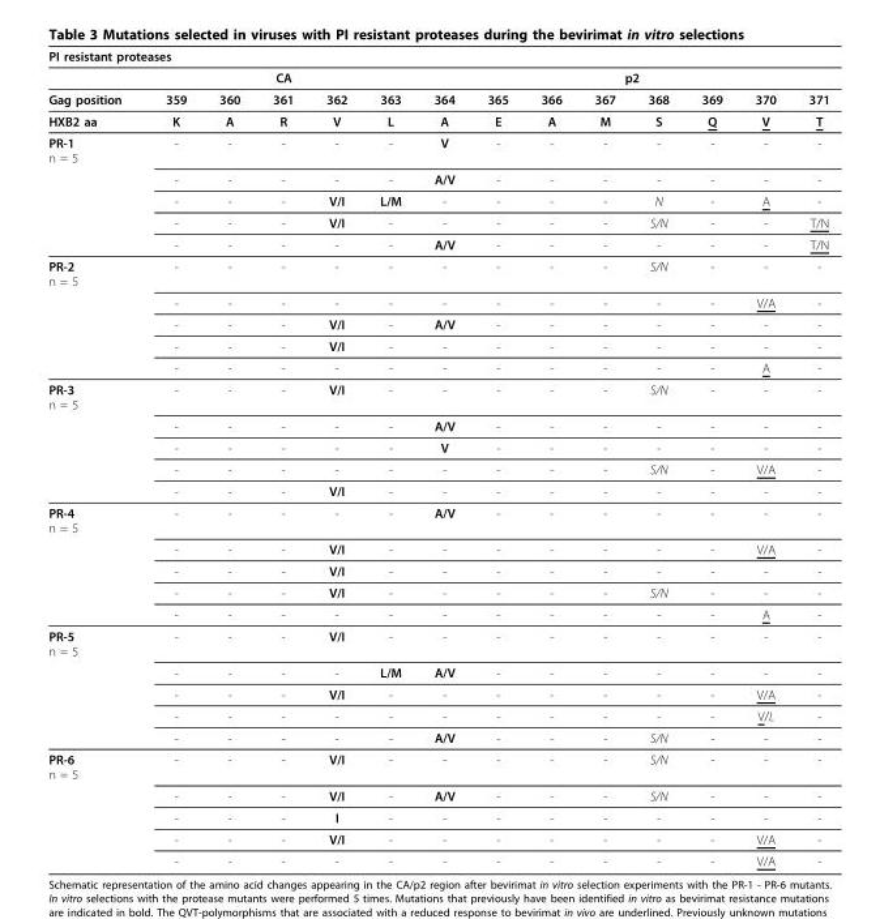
<table><thead><tr><td colspan="14">PI resistant proteases</td></tr><tr><td rowspan="2">Gag position</td><td colspan="5">CA</td><td colspan="8">p2</td></tr><tr><td>359</td><td>360</td><td>361</td><td>362</td><td>363</td><td>364</td><td>365</td><td>366</td><td>367</td><td>368</td><td>369</td><td>370</td><td>371</td></tr></thead><tbody><tr><td>HXB2 aa</td><td>K</td><td>A</td><td>R</td><td>V</td><td>L</td><td>A</td><td>E</td><td>A</td><td>M</td><td>S</td><td>Q</td><td>V</td><td>T</td></tr><tr><td rowspan="5">PR-1 n = 5</td><td>-</td><td>-</td><td>-</td><td>-</td><td>-</td><td>V</td><td>-</td><td>-</td><td>-</td><td>-</td><td>-</td><td>-</td><td>-</td></tr><tr><td>-</td><td>-</td><td>-</td><td>-</td><td>-</td><td>A/V</td><td>-</td><td>-</td><td>-</td><td>-</td><td>-</td><td>-</td><td>-</td></tr><tr><td>-</td><td>-</td><td>-</td><td>V/I</td><td>L/M</td><td>-</td><td>-</td><td>-</td><td>-</td><td>N</td><td>-</td><td>A</td><td>-</td></tr><tr><td>-</td><td>-</td><td>-</td><td>V/I</td><td>-</td><td>-</td><td>-</td><td>-</td><td>-</td><td>S/N</td><td>-</td><td>-</td><td>T/N</td></tr><tr><td>-</td><td>-</td><td>-</td><td>-</td><td>-</td><td>A/V</td><td>-</td><td>-</td><td>-</td><td>-</td><td>-</td><td>-</td><td>T/N</td></tr><tr><td rowspan="5">PR-2 n = 5</td><td>-</td><td>-</td><td>-</td><td>-</td><td>-</td><td>-</td><td>-</td><td>-</td><td>-</td><td>S/N</td><td>-</td><td>-</td><td>-</td></tr><tr><td>-</td><td>-</td><td>-</td><td>-</td><td>-</td><td>-</td><td>-</td><td>-</td><td>-</td><td>-</td><td>-</td><td>V/A</td><td>-</td></tr><tr><td>-</td><td>-</td><td>-</td><td>V/I</td><td>-</td><td>A/V</td><td>-</td><td>-</td><td>-</td><td>-</td><td>-</td><td>-</td><td>-</td></tr><tr><td>-</td><td>-</td><td>-</td><td>V/I</td><td>-</td><td>-</td><td>-</td><td>-</td><td>-</td><td>-</td><td>-</td><td>-</td><td>-</td></tr><tr><td>-</td><td>-</td><td>-</td><td>-</td><td>-</td><td>-</td><td>-</td><td>-</td><td>-</td><td>-</td><td>-</td><td>A</td><td>-</td></tr><tr><td rowspan="5">PR-3 n = 5</td><td>-</td><td>-</td><td>-</td><td>V/I</td><td>-</td><td>-</td><td>-</td><td>-</td><td>-</td><td>S/N</td><td>-</td><td>-</td><td>-</td></tr><tr><td>-</td><td>-</td><td>-</td><td>-</td><td>-</td><td>A/V</td><td>-</td><td>-</td><td>-</td><td>-</td><td>-</td><td>-</td><td>-</td></tr><tr><td>-</td><td>-</td><td>-</td><td>-</td><td>-</td><td>V</td><td>-</td><td>-</td><td>-</td><td>-</td><td>-</td><td>-</td><td>-</td></tr><tr><td>-</td><td>-</td><td>-</td><td>-</td><td>-</td><td>-</td><td>-</td><td>-</td><td>-</td><td>S/N</td><td>-</td><td>V/A</td><td>-</td></tr><tr><td>-</td><td>-</td><td>-</td><td>V/I</td><td>-</td><td>-</td><td>-</td><td>-</td><td>-</td><td>-</td><td>-</td><td>-</td><td>-</td></tr><tr><td rowspan="5">PR-4 n = 5</td><td>-</td><td>-</td><td>-</td><td>-</td><td>-</td><td>A/V</td><td>-</td><td>-</td><td>-</td><td>-</td><td>-</td><td>-</td><td>-</td></tr><tr><td>-</td><td>-</td><td>-</td><td>V/I</td><td>-</td><td>-</td><td>-</td><td>-</td><td>-</td><td>-</td><td>-</td><td>V/A</td><td>-</td></tr><tr><td>-</td><td>-</td><td>-</td><td>V/I</td><td>-</td><td>-</td><td>-</td><td>-</td><td>-</td><td>-</td><td>-</td><td>-</td><td>-</td></tr><tr><td>-</td><td>-</td><td>-</td><td>V/I</td><td>-</td><td>-</td><td>-</td><td>-</td><td>-</td><td>S/N</td><td>-</td><td>-</td><td>-</td></tr><tr><td>-</td><td>-</td><td>-</td><td>-</td><td>-</td><td>-</td><td>-</td><td>-</td><td>-</td><td>-</td><td>-</td><td>A</td><td>-</td></tr><tr><td rowspan="5">PR-5 n = 5</td><td>-</td><td>-</td><td>-</td><td>V/I</td><td>-</td><td>-</td><td>-</td><td>-</td><td>-</td><td>-</td><td>-</td><td>-</td><td>-</td></tr><tr><td>-</td><td>-</td><td>-</td><td>-</td><td>L/M</td><td>A/V</td><td>-</td><td>-</td><td>-</td><td>-</td><td>-</td><td>-</td><td>-</td></tr><tr><td>-</td><td>-</td><td>-</td><td>V/I</td><td>-</td><td>-</td><td>-</td><td>-</td><td>-</td><td>-</td><td>-</td><td>V/A</td><td>-</td></tr><tr><td>-</td><td>-</td><td>-</td><td>-</td><td>-</td><td>-</td><td>-</td><td>-</td><td>-</td><td>-</td><td>-</td><td>V/L</td><td>-</td></tr><tr><td>-</td><td>-</td><td>-</td><td>-</td><td>-</td><td>A/V</td><td>-</td><td>-</td><td>-</td><td>S/N</td><td>-</td><td>-</td><td>-</td></tr><tr><td rowspan="5">PR-6 n = 5</td><td>-</td><td>-</td><td>-</td><td>V/I</td><td>-</td><td>-</td><td>-</td><td>-</td><td>-</td><td>S/N</td><td>-</td><td>-</td><td>-</td></tr><tr><td>-</td><td>-</td><td>-</td><td>V/I</td><td>-</td><td>A/V</td><td>-</td><td>-</td><td>-</td><td>S/N</td><td>-</td><td>-</td><td>-</td></tr><tr><td>-</td><td>-</td><td>-</td><td>I</td><td>-</td><td>-</td><td>-</td><td>-</td><td>-</td><td>-</td><td>-</td><td>-</td><td>-</td></tr><tr><td>-</td><td>-</td><td>-</td><td>V/I</td><td>-</td><td>-</td><td>-</td><td>-</td><td>-</td><td>-</td><td>-</td><td>V/A</td><td>-</td></tr><tr><td>-</td><td>-</td><td>-</td><td>-</td><td>-</td><td>-</td><td>-</td><td>-</td><td>-</td><td>-</td><td>-</td><td>V/A</td><td>-</td></tr></tbody></table>